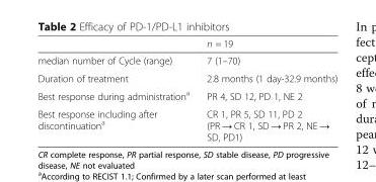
<table><thead><tr><td></td><td>n = 19</td></tr></thead><tbody><tr><td>median number of Cycle (range)</td><td>7 (1–70)</td></tr><tr><td>Duration of treatment</td><td>2.8 months (1 day-32.9 months)</td></tr><tr><td>Best response during administration<sup>a</sup></td><td>PR 4, SD 12, PD 1, NE 2</td></tr><tr><td>Best response including after discontinuation<sup>a</sup></td><td>CR 1, PR 5, SD 11, PD 2 (PR → CR 1, SD → PR 2, NE → SD, PD1)</td></tr></tbody></table>